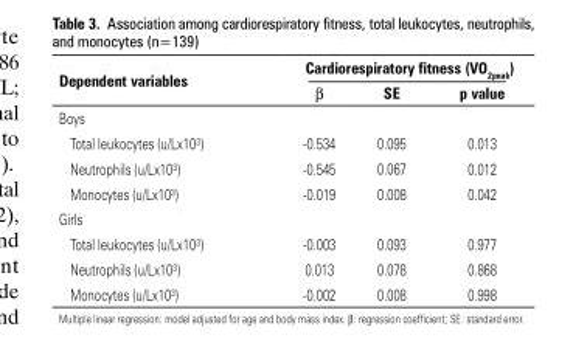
<table><thead><tr><td rowspan="2">Dependent variables</td><td colspan="3">Cardiorespiratory fitness (Vo<sub>2peak</sub>)</td></tr><tr><td>β</td><td>SE</td><td>p value</td></tr></thead><tbody><tr><td colspan="4">Boys</td></tr><tr><td>Total leukocytes (u/Lx10³)</td><td>-0.534</td><td>0.095</td><td>0.013</td></tr><tr><td>Neutrophils (u/Lx10³)</td><td>-0.545</td><td>0.067</td><td>0.012</td></tr><tr><td>Monocytes (u/Lx10³)</td><td>-0.019</td><td>0.008</td><td>0.042</td></tr><tr><td colspan="4">Girls</td></tr><tr><td>Total leukocytes (u/Lx10³)</td><td>-0.003</td><td>0.093</td><td>0.977</td></tr><tr><td>Neutrophils (u/Lx10³)</td><td>0.013</td><td>0.078</td><td>0.868</td></tr><tr><td>Monocytes (u/Lx10³)</td><td>-0.002</td><td>0.008</td><td>0.998</td></tr></tbody></table>